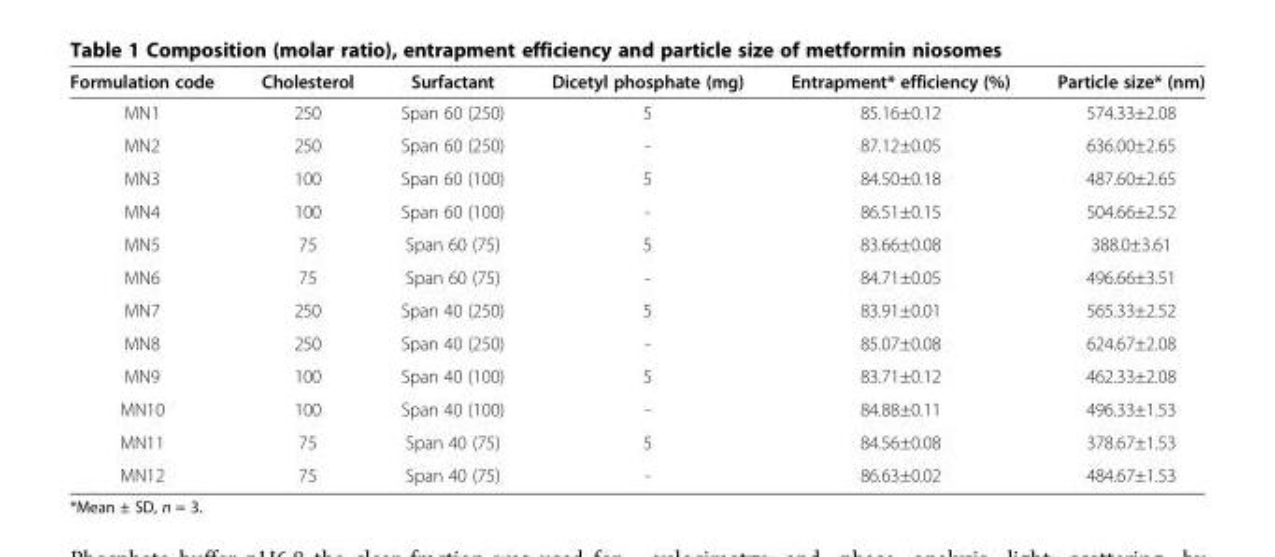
<table><thead><tr><td>Formulation code</td><td>Cholesterol</td><td>Surfactant</td><td>Dicetyl phosphate (mg)</td><td>Entrapment* efficiency (%)</td><td>Particle size* (nm)</td></tr></thead><tbody><tr><td>MN1</td><td>250</td><td>Span 60 (250)</td><td>5</td><td>85.16±0.12</td><td>574.33±2.08</td></tr><tr><td>MN2</td><td>250</td><td>Span 60 (250)</td><td>-</td><td>87.12±0.05</td><td>636.00±2.65</td></tr><tr><td>MN3</td><td>100</td><td>Span 60 (100)</td><td>5</td><td>84.50±0.18</td><td>487.60±2.65</td></tr><tr><td>MN4</td><td>100</td><td>Span 60 (100)</td><td>-</td><td>86.51±0.15</td><td>504.66±2.52</td></tr><tr><td>MN5</td><td>75</td><td>Span 60 (75)</td><td>5</td><td>83.66±0.08</td><td>388.0±3.61</td></tr><tr><td>MN6</td><td>75</td><td>Span 60 (75)</td><td>-</td><td>84.71±0.05</td><td>496.66±3.51</td></tr><tr><td>MN7</td><td>250</td><td>Span 40 (250)</td><td>5</td><td>83.91±0.01</td><td>565.33±2.52</td></tr><tr><td>MN8</td><td>250</td><td>Span 40 (250)</td><td>-</td><td>85.07±0.08</td><td>624.67±2.08</td></tr><tr><td>MN9</td><td>100</td><td>Span 40 (100)</td><td>5</td><td>83.71±0.12</td><td>462.33±2.08</td></tr><tr><td>MN10</td><td>100</td><td>Span 40 (100)</td><td>-</td><td>84.88±0.11</td><td>496.33±1.53</td></tr><tr><td>MN11</td><td>75</td><td>Span 40 (75)</td><td>5</td><td>84.56±0.08</td><td>378.67±1.53</td></tr><tr><td>MN12</td><td>75</td><td>Span 40 (75)</td><td>-</td><td>86.63±0.02</td><td>484.67±1.53</td></tr></tbody></table>